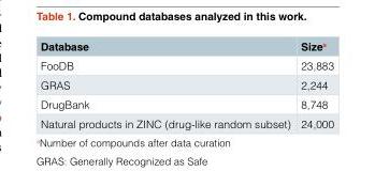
<table><thead><tr><td>Database</td><td>Size<sup>a</sup></td></tr></thead><tbody><tr><td>FooDB</td><td>23,883</td></tr><tr><td>GRAS</td><td>2,244</td></tr><tr><td>DrugBank</td><td>8,748</td></tr><tr><td>Natural products in ZINC (drug-like random subset)</td><td>24,000</td></tr></tbody></table>